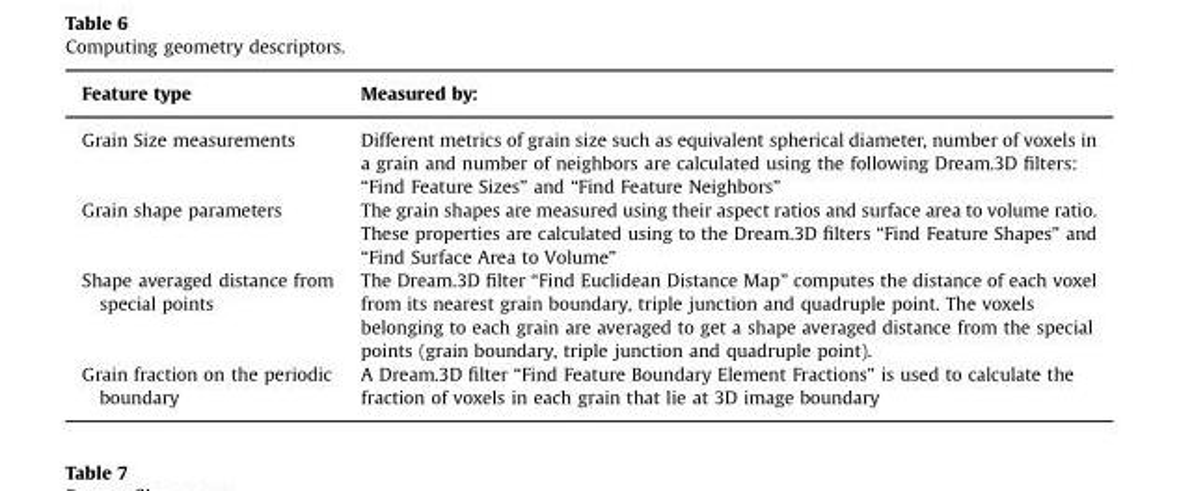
<table><thead><tr><td>Feature type</td><td>Measured by:</td></tr></thead><tbody><tr><td>Grain Size measurements</td><td>Different metrics of grain size such as equivalent spherical diameter, number of voxels in a grain and number of neighbors are calculated using the following Dream.3D filters: “Find Feature Sizes” and “Find Feature Neighbors”</td></tr><tr><td>Grain shape parameters</td><td>The grain shapes are measured using their aspect ratios and surface area to volume ratio. These properties are calculated using to the Dream.3D filters “Find Feature Shapes” and “Find Surface Area to Volume”</td></tr><tr><td>Shape averaged distance from special points</td><td>The Dream.3D filter “Find Euclidean Distance Map” computes the distance of each voxel from its nearest grain boundary, triple junction and quadruple point. The voxels belonging to each grain are averaged to get a shape averaged distance from the special points (grain boundary, triple junction and quadruple point).</td></tr><tr><td>Grain fraction on the periodic boundary</td><td>A Dream.3D filter “Find Feature Boundary Element Fractions” is used to calculate the fraction of voxels in each grain that lie at 3D image boundary</td></tr></tbody></table>